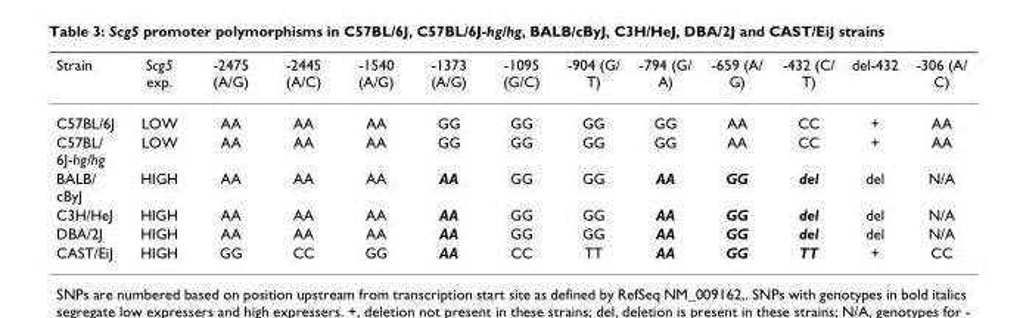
<table><thead><tr><td>Strain</td><td>Scg5 exp.</td><td>-2475 (A/G)</td><td>-2445 (A/C)</td><td>-1540 (A/G)</td><td>-1373 (A/G)</td><td>-1095 (G/C)</td><td>-904 (G/ T)</td><td>-794 (G/ A)</td><td>-659 (A/ G)</td><td>-432 (C/ T)</td><td>del-432</td><td>-306 (A/ C)</td></tr></thead><tbody><tr><td>C57BL/6J</td><td>LOW</td><td>AA</td><td>AA</td><td>AA</td><td>GG</td><td>GG</td><td>GG</td><td>GG</td><td>AA</td><td>CC</td><td>+</td><td>AA</td></tr><tr><td>C57BL/ 6J-hg/hg</td><td>LOW</td><td>AA</td><td>AA</td><td>AA</td><td>GG</td><td>GG</td><td>GG</td><td>GG</td><td>AA</td><td>CC</td><td>+</td><td>AA</td></tr><tr><td>BALB/ cByJ</td><td>HIGH</td><td>AA</td><td>AA</td><td>AA</td><td>AA</td><td>GG</td><td>GG</td><td>AA</td><td>GG</td><td>del</td><td>del</td><td>N/A</td></tr><tr><td>C3H/HeJ</td><td>HIGH</td><td>AA</td><td>AA</td><td>AA</td><td>AA</td><td>GG</td><td>GG</td><td>AA</td><td>GG</td><td>del</td><td>del</td><td>N/A</td></tr><tr><td>DBA/2J</td><td>HIGH</td><td>AA</td><td>AA</td><td>AA</td><td>AA</td><td>GG</td><td>GG</td><td>AA</td><td>GG</td><td>del</td><td>del</td><td>N/A</td></tr><tr><td>CAST/EiJ</td><td>HIGH</td><td>GG</td><td>CC</td><td>GG</td><td>AA</td><td>CC</td><td>TT</td><td>AA</td><td>GG</td><td>TT</td><td>+</td><td>CC</td></tr></tbody></table>